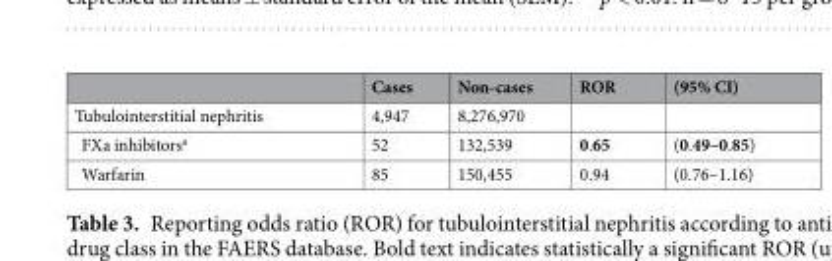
<table><thead><tr><td></td><td>Cases</td><td>Non-cases</td><td>ROR</td><td>(95% CI)</td></tr></thead><tbody><tr><td>Tubulointerstitial nephritis</td><td>4,947</td><td>8,276,970</td><td></td><td></td></tr><tr><td>FXa inhibitors<sup>a</sup></td><td>52</td><td>132,539</td><td>0.65</td><td>(0.49–0.85)</td></tr><tr><td>Warfarin</td><td>85</td><td>150,455</td><td>0.94</td><td>(0.76–1.16)</td></tr></tbody></table>